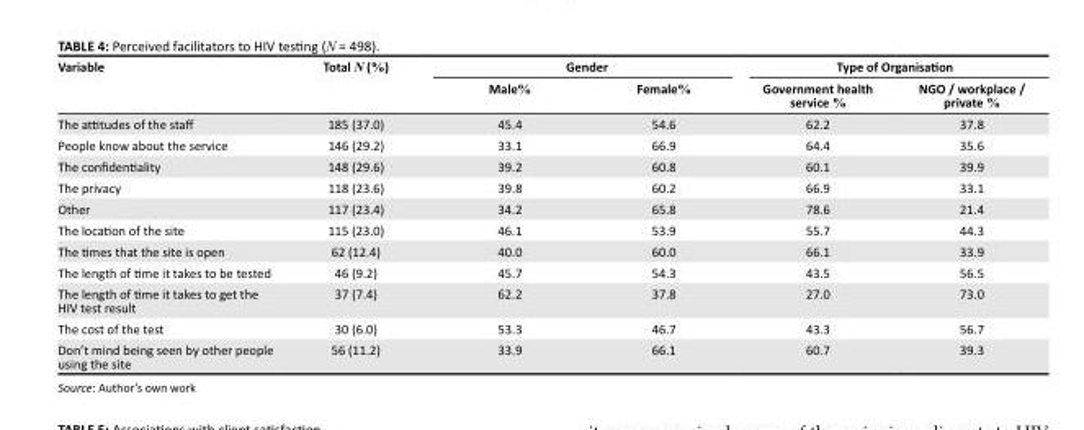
<table><thead><tr><td rowspan="2">Variable</td><td rowspan="2">Total N (%)</td><td colspan="2">Gender</td><td colspan="2">Type of Organisation</td></tr><tr><td>Male%</td><td>Female%</td><td>Government health service %</td><td>NGO / workplace / private %</td></tr></thead><tbody><tr><td>The attitudes of the staff</td><td>185 (37.0)</td><td>45.4</td><td>54.6</td><td>62.2</td><td>37.8</td></tr><tr><td>People know about the service</td><td>146 (29.2)</td><td>33.1</td><td>66.9</td><td>64.4</td><td>35.6</td></tr><tr><td>The confidentiality</td><td>148 (29.6)</td><td>39.2</td><td>60.8</td><td>60.1</td><td>39.9</td></tr><tr><td>The privacy</td><td>118 (23.6)</td><td>39.8</td><td>60.2</td><td>66.9</td><td>33.1</td></tr><tr><td>Other</td><td>117 (23.4)</td><td>34.2</td><td>65.8</td><td>78.6</td><td>21.4</td></tr><tr><td>The location of the site</td><td>115 (23.0)</td><td>46.1</td><td>53.9</td><td>55.7</td><td>44.3</td></tr><tr><td>The times that the site is open</td><td>62 (12.4)</td><td>40.0</td><td>60.0</td><td>66.1</td><td>33.9</td></tr><tr><td>The length of time it takes to be tested</td><td>46 (9.2)</td><td>45.7</td><td>54.3</td><td>43.5</td><td>56.5</td></tr><tr><td>The length of time it takes to get the HIV test result</td><td>37 (7.4)</td><td>62.2</td><td>37.8</td><td>27.0</td><td>73.0</td></tr><tr><td>The cost of the test</td><td>30 (6.0)</td><td>53.3</td><td>46.7</td><td>43.3</td><td>56.7</td></tr><tr><td>Don’t mind being seen by other people using the site</td><td>56 (11.2)</td><td>33.9</td><td>66.1</td><td>60.7</td><td>39.3</td></tr></tbody></table>